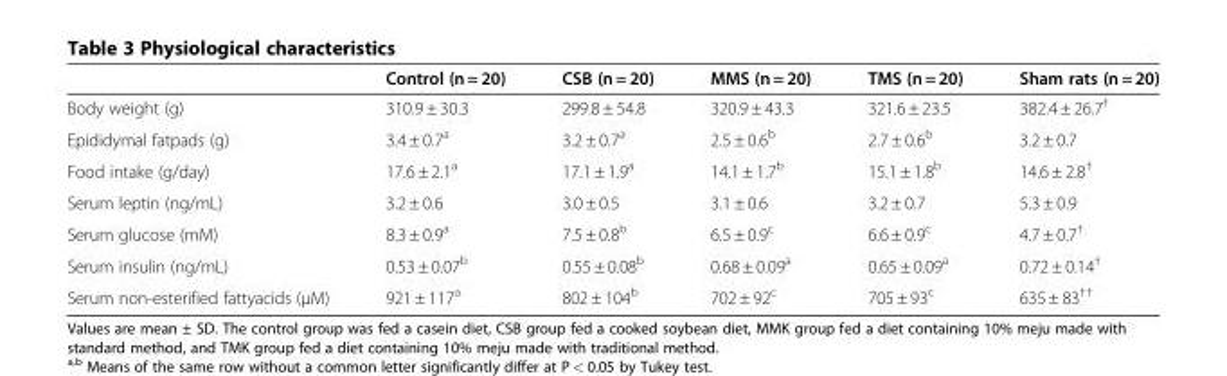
<table><thead><tr><td></td><td>Control (n = 20)</td><td>CSB (n = 20)</td><td>MMS (n = 20)</td><td>TMS (n = 20)</td><td>Sham rats (n = 20)</td></tr></thead><tbody><tr><td>Body weight (g)</td><td>310.9 ± 30.3</td><td>299.8 ± 54.8</td><td>320.9 ± 43.3</td><td>321.6 ± 23.5</td><td>382.4 ± 26.7<sup>†</sup></td></tr><tr><td>Epididymal fatpads (g)</td><td>3.4 ± 0.7<sup>a</sup></td><td>3.2 ± 0.7<sup>a</sup></td><td>2.5 ± 0.6<sup>b</sup></td><td>2.7 ± 0.6<sup>b</sup></td><td>3.2 ± 0.7</td></tr><tr><td>Food intake (g/day)</td><td>17.6 ± 2.1<sup>a</sup></td><td>17.1 ± 1.9<sup>a</sup></td><td>14.1 ± 1.7<sup>b</sup></td><td>15.1 ± 1.8<sup>b</sup></td><td>14.6 ± 2.8<sup>†</sup></td></tr><tr><td>Serum leptin (ng/mL)</td><td>3.2 ± 0.6</td><td>3.0 ± 0.5</td><td>3.1 ± 0.6</td><td>3.2 ± 0.7</td><td>5.3 ± 0.9</td></tr><tr><td>Serum glucose (mM)</td><td>8.3 ± 0.9<sup>a</sup></td><td>7.5 ± 0.8<sup>b</sup></td><td>6.5 ± 0.9<sup>c</sup></td><td>6.6 ± 0.9<sup>c</sup></td><td>4.7 ± 0.7<sup>†</sup></td></tr><tr><td>Serum insulin (ng/mL)</td><td>0.53 ± 0.07<sup>b</sup></td><td>0.55 ± 0.08<sup>b</sup></td><td>0.68 ± 0.09<sup>a</sup></td><td>0.65 ± 0.09<sup>a</sup></td><td>0.72 ± 0.14<sup>†</sup></td></tr><tr><td>Serum non-esterified fattyacids (μM)</td><td>921 ± 117<sup>a</sup></td><td>802 ± 104<sup>b</sup></td><td>702 ± 92<sup>c</sup></td><td>705 ± 93<sup>c</sup></td><td>635 ± 83<sup>††</sup></td></tr></tbody></table>